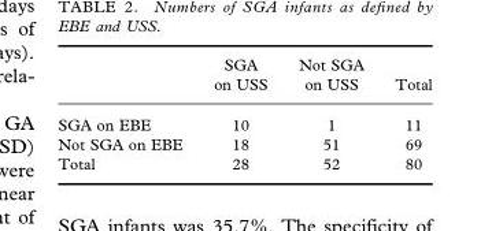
<table><thead><tr><td></td><td>SGA on USS</td><td>Not SGA on USS</td><td>Total</td></tr></thead><tbody><tr><td>SGA on EBE</td><td>10</td><td>1</td><td>11</td></tr><tr><td>Not SGA on EBE</td><td>18</td><td>51</td><td>69</td></tr><tr><td>Total</td><td>28</td><td>52</td><td>80</td></tr></tbody></table>